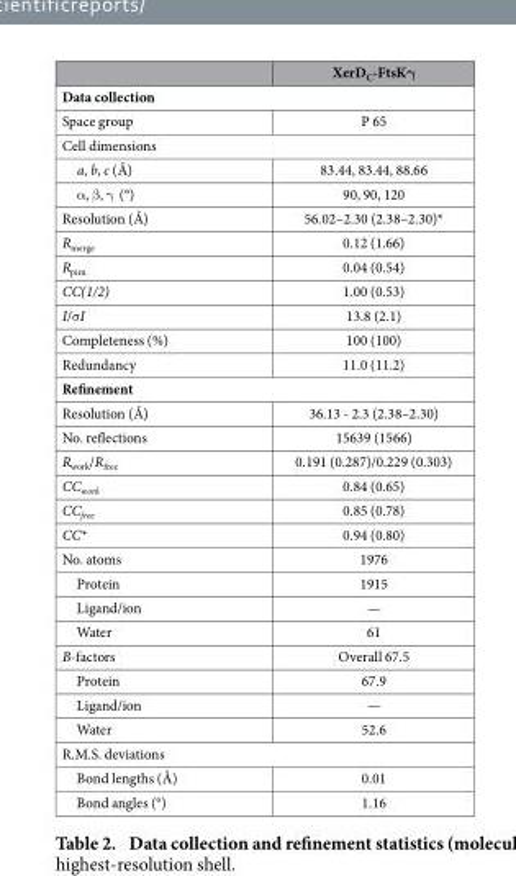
<table><thead><tr><td></td><td>XerD<sub>C</sub>-FtsKγ</td></tr></thead><tbody><tr><td colspan="2">Data collection</td></tr><tr><td>Space group</td><td>P 65</td></tr><tr><td colspan="2">Cell dimensions</td></tr><tr><td>a, b, c (Å)</td><td>83.44, 83.44, 88.66</td></tr><tr><td>α , β , γ (°)</td><td>90, 90, 120</td></tr><tr><td>Resolution (Å)</td><td>56.02–2.30 (2.38–2.30)*</td></tr><tr><td>R<sub>merge</sub></td><td>0.12 (1.66)</td></tr><tr><td>R<sub>pim</sub></td><td>0.04 (0.54)</td></tr><tr><td>CC(1/2)</td><td>1.00 (0.53)</td></tr><tr><td>I/σ I</td><td>13.8 (2.1)</td></tr><tr><td>Completeness (%)</td><td>100 (100)</td></tr><tr><td>Redundancy</td><td>11.0 (11.2)</td></tr><tr><td colspan="2">Refinement</td></tr><tr><td>Resolution (Å)</td><td>36.13 - 2.3 (2.38–2.30)</td></tr><tr><td>No. reflections</td><td>15639 (1566)</td></tr><tr><td>R<sub>work</sub>/R<sub>free</sub></td><td>0.191 (0.287)/0.229 (0.303)</td></tr><tr><td>CC<sub>work</sub></td><td>0.84 (0.65)</td></tr><tr><td>CC<sub>free</sub></td><td>0.85 (0.78)</td></tr><tr><td>CC*</td><td>0.94 (0.80)</td></tr><tr><td>No. atoms</td><td>1976</td></tr><tr><td>Protein</td><td>1915</td></tr><tr><td>Ligand/ion</td><td>—</td></tr><tr><td>Water</td><td>61</td></tr><tr><td>B-factors</td><td>Overall 67.5</td></tr><tr><td>Protein</td><td>67.9</td></tr><tr><td>Ligand/ion</td><td>—</td></tr><tr><td>Water</td><td>52.6</td></tr><tr><td colspan="2">R.M.S. deviations</td></tr><tr><td>Bond lengths (Å)</td><td>0.01</td></tr><tr><td>Bond angles (°)</td><td>1.16</td></tr></tbody></table>